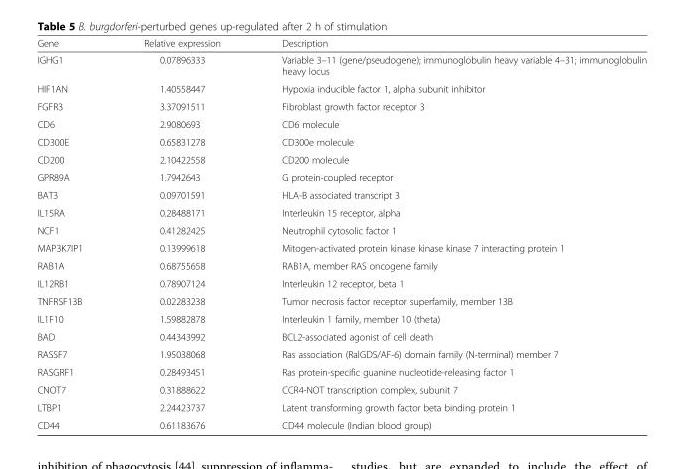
<table><thead><tr><td>Gene</td><td>Relative expression</td><td>Description</td></tr></thead><tbody><tr><td>IGHG1</td><td>0.07896333</td><td>Variable 3–11 (gene/pseudogene); immunoglobulin heavy variable 4–31; immunoglobulin heavy locus</td></tr><tr><td>HIF1AN</td><td>1.40558447</td><td>Hypoxia inducible factor 1, alpha subunit inhibitor</td></tr><tr><td>FGFR3</td><td>3.37091511</td><td>Fibroblast growth factor receptor 3</td></tr><tr><td>CD6</td><td>2.9080693</td><td>CD6 molecule</td></tr><tr><td>CD300E</td><td>0.65831278</td><td>CD300e molecule</td></tr><tr><td>CD200</td><td>2.10422558</td><td>CD200 molecule</td></tr><tr><td>GPR89A</td><td>1.7942643</td><td>G protein-coupled receptor</td></tr><tr><td>BAT3</td><td>0.09701591</td><td>HLA-B associated transcript 3</td></tr><tr><td>IL15RA</td><td>0.28488171</td><td>Interleukin 15 receptor, alpha</td></tr><tr><td>NCF1</td><td>0.41282425</td><td>Neutrophil cytosolic factor 1</td></tr><tr><td>MAP3K7IP1</td><td>0.13999618</td><td>Mitogen-activated protein kinase kinase kinase 7 interacting protein 1</td></tr><tr><td>RAB1A</td><td>0.68755658</td><td>RAB1A, member RAS oncogene family</td></tr><tr><td>IL12RB1</td><td>0.78907124</td><td>Interleukin 12 receptor, beta 1</td></tr><tr><td>TNFRSF13B</td><td>0.02283238</td><td>Tumor necrosis factor receptor superfamily, member 13B</td></tr><tr><td>IL1F10</td><td>1.59882878</td><td>Interleukin 1 family, member 10 (theta)</td></tr><tr><td>BAD</td><td>0.44343992</td><td>BCL2-associated agonist of cell death</td></tr><tr><td>RASSF7</td><td>1.95038068</td><td>Ras association (RalGDS/AF-6) domain family (N-terminal) member 7</td></tr><tr><td>RASGRF1</td><td>0.28493451</td><td>Ras protein-specific guanine nucleotide-releasing factor 1</td></tr><tr><td>CNOT7</td><td>0.31888622</td><td>CCR4-NOT transcription complex, subunit 7</td></tr><tr><td>LTBP1</td><td>2.24423737</td><td>Latent transforming growth factor beta binding protein 1</td></tr><tr><td>CD44</td><td>0.61183676</td><td>CD44 molecule (Indian blood group)</td></tr></tbody></table>